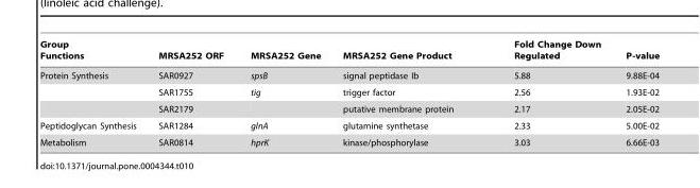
<table><thead><tr><td>Group Functions</td><td>MRSA252 ORF</td><td>MRSA252 Gene</td><td>MRSA252 Gene Product</td><td>Fold Change Down Regulated</td><td>P-value</td></tr></thead><tbody><tr><td rowspan="3">Protein Synthesis</td><td>SAR0927</td><td>spsB</td><td>signal peptidase Ib</td><td>5.88</td><td>9.88E-04</td></tr><tr><td>SAR1755</td><td>tig</td><td>trigger factor</td><td>2.56</td><td>1.93E-02</td></tr><tr><td>SAR2179</td><td></td><td>putative membrane protein</td><td>2.17</td><td>2.05E-02</td></tr><tr><td>Peptidoglycan Synthesis</td><td>SAR1284</td><td>glnA</td><td>glutamine synthetase</td><td>2.33</td><td>5.00E-02</td></tr><tr><td>Metabolism</td><td>SAR0814</td><td>hprK</td><td>kinase/phosphorylase</td><td>3.03</td><td>6.66E-03</td></tr></tbody></table>